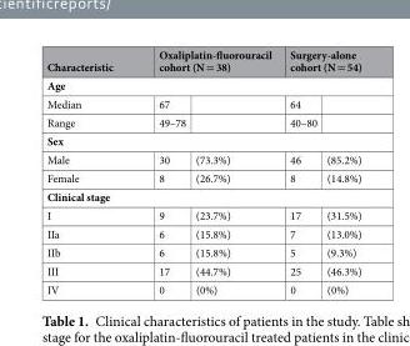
<table><thead><tr><td>Characteristic</td><td colspan="2">Oxaliplatin-fluorouracil cohort (N = 38)</td><td colspan="2">Surgery-alone cohort (N = 54)</td></tr><tr><td colspan="5">Age</td></tr><tr><td>Median</td><td>67</td><td></td><td>64</td><td></td></tr></thead><tbody><tr><td>Range</td><td>49–78</td><td></td><td>40–80</td><td></td></tr><tr><td colspan="5">Sex</td></tr><tr><td>Male</td><td>30</td><td>(73.3%)</td><td>46</td><td>(85.2%)</td></tr><tr><td>Female</td><td>8</td><td>(26.7%)</td><td>8</td><td>(14.8%)</td></tr><tr><td colspan="5">Clinical stage</td></tr><tr><td>I</td><td>9</td><td>(23.7%)</td><td>17</td><td>(31.5%)</td></tr><tr><td>IIa</td><td>6</td><td>(15.8%)</td><td>7</td><td>(13.0%)</td></tr><tr><td>IIb</td><td>6</td><td>(15.8%)</td><td>5</td><td>(9.3%)</td></tr><tr><td>III</td><td>17</td><td>(44.7%)</td><td>25</td><td>(46.3%)</td></tr><tr><td>IV</td><td>0</td><td>(0%)</td><td>0</td><td>(0%)</td></tr></tbody></table>